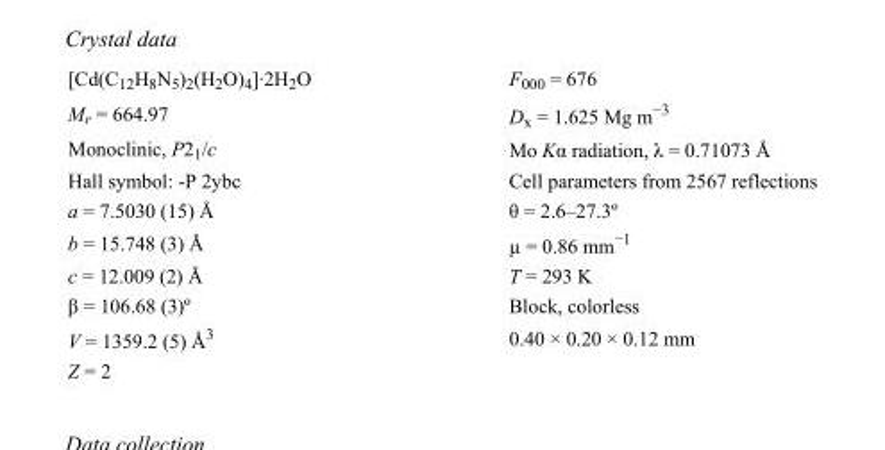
<table><tbody><tr><td>[Cd(C<sub>12</sub>H<sub>8</sub>N<sub>5</sub>)<sub>2</sub>(H<sub>2</sub>O)<sub>4</sub>]·2H<sub>2</sub>O</td><td>F000 = 676</td></tr><tr><td>M<sub>r</sub> = 664.97</td><td>D<sub>x</sub> = 1.625 Mg m<sup>−3</sup></td></tr><tr><td>Monoclinic, P2<sub>1</sub>/c</td><td>Mo Kα radiation, λ = 0.71073 Å</td></tr><tr><td>Hall symbol: -P 2ybc</td><td>Cell parameters from 2567 reflections</td></tr><tr><td>a = 7.5030 (15) Å</td><td>θ = 2.6–27.3º</td></tr><tr><td>b = 15.748 (3) Å</td><td>µ = 0.86 mm<sup>−1</sup></td></tr><tr><td>c = 12.009 (2) Å</td><td>T = 293 K</td></tr><tr><td>β = 106.68 (3)º</td><td>Block, colorless</td></tr><tr><td>V = 1359.2 (5) Å<sup>3</sup></td><td>0.40 × 0.20 × 0.12 mm</td></tr><tr><td>Z = 2</td><td></td></tr></tbody></table>